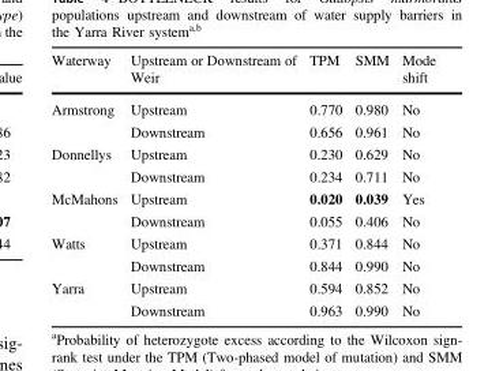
<table><thead><tr><td>Waterway</td><td>Upstream or Downstream of Weir</td><td>TPM</td><td>SMM</td><td>Mode shift</td></tr></thead><tbody><tr><td rowspan="2">Armstrong</td><td>Upstream</td><td>0.770</td><td>0.980</td><td>No</td></tr><tr><td>Downstream</td><td>0.656</td><td>0.961</td><td>No</td></tr><tr><td rowspan="2">Donnellys</td><td>Upstream</td><td>0.230</td><td>0.629</td><td>No</td></tr><tr><td>Downstream</td><td>0.234</td><td>0.711</td><td>No</td></tr><tr><td rowspan="2">McMahons</td><td>Upstream</td><td>0.020</td><td>0.039</td><td>Yes</td></tr><tr><td>Downstream</td><td>0.055</td><td>0.406</td><td>No</td></tr><tr><td rowspan="2">Watts</td><td>Upstream</td><td>0.371</td><td>0.844</td><td>No</td></tr><tr><td>Downstream</td><td>0.844</td><td>0.990</td><td>No</td></tr><tr><td rowspan="2">Yarra</td><td>Upstream</td><td>0.594</td><td>0.852</td><td>No</td></tr><tr><td>Downstream</td><td>0.963</td><td>0.990</td><td>No</td></tr></tbody></table>